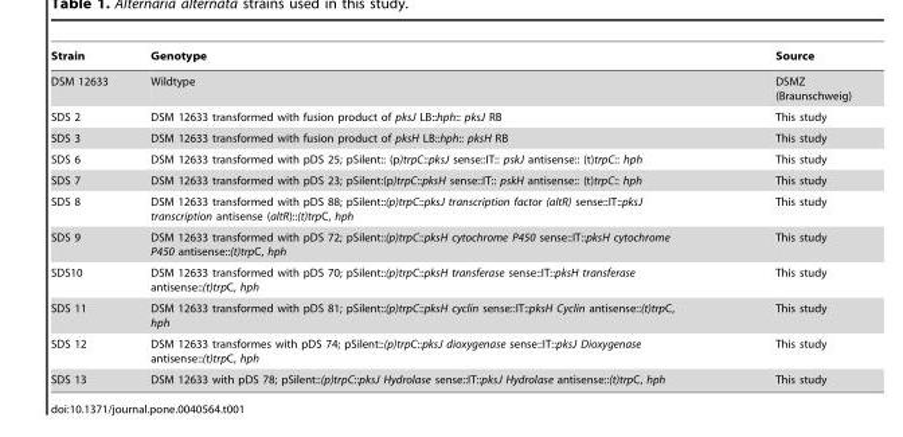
<table><thead><tr><td>Strain</td><td>Genotype</td><td>Source</td></tr></thead><tbody><tr><td>DSM 12633</td><td>Wildtype</td><td>DSMZ (Braunschweig)</td></tr><tr><td>SDS 2</td><td>DSM 12633 transformed with fusion product of pksJ LB::hph:: pksJ RB</td><td>This study</td></tr><tr><td>SDS 3</td><td>DSM 12633 transformed with fusion product of pksH LB::hph:: pksH RB</td><td>This study</td></tr><tr><td>SDS 6</td><td>DSM 12633 transformed with pDS 25; pSilent:: (p)trpC::pksJ sense::IT:: pskJ antisense:: (t)trpC:: hph</td><td>This study</td></tr><tr><td>SDS 7</td><td>DSM 12633 transformed with pDS 23; pSilent:(p)trpC::pksH sense::IT:: pskH antisense:: (t)trpC:: hph</td><td>This study</td></tr><tr><td>SDS 8</td><td>DSM 12633 transformed with pDS 88; pSilent::(p)trpC::pksJ transcription factor (altR) sense::IT::pksJ transcription antisense (altR)::(t)trpC, hph</td><td>This study</td></tr><tr><td>SDS 9</td><td>DSM 12633 transformed with pDS 72; pSilent::(p)trpC::pksH cytochrome P450 sense::IT::pksH cytochrome P450 antisense::(t)trpC, hph</td><td>This study</td></tr><tr><td>SDS10</td><td>DSM 12633 transformed with pDS 70; pSilent::(p)trpC::pksH transferase sense::IT::pksH transferase antisense::(t)trpC, hph</td><td>This study</td></tr><tr><td>SDS 11</td><td>DSM 12633 transformed with pDS 81; pSilent::(p)trpC::pksH cyclin sense::IT::pksH Cyclin antisense::(t)trpC, hph</td><td>This study</td></tr><tr><td>SDS 12</td><td>DSM 12633 transformes with pDS 74; pSilent::(p)trpC::pksJ dioxygenase sense::IT::pksJ Dioxygenase antisense::(t)trpC, hph</td><td>This study</td></tr><tr><td>SDS 13</td><td>DSM 12633 with pDS 78; pSilent::(p)trpC::pksJ Hydrolase sense::IT::pksJ Hydrolase antisense::(t)trpC, hph</td><td>This study</td></tr></tbody></table>